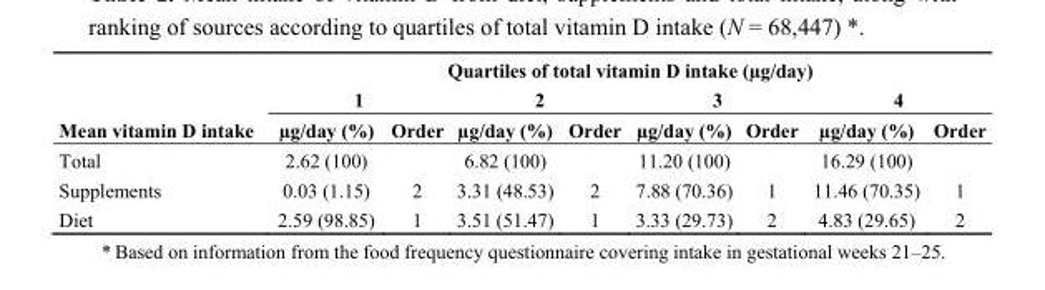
<table><thead><tr><td rowspan="3">Mean vitamin D intake</td><td colspan="8">Quartiles of total vitamin D intake (µg/day)</td></tr><tr><td colspan="2">1</td><td colspan="2">2</td><td colspan="2">3</td><td colspan="2">4</td></tr><tr><td>µg/day (%)</td><td>Order</td><td>µg/day (%)</td><td>Order</td><td>µg/day (%)</td><td>Order</td><td>µg/day (%)</td><td>Order</td></tr></thead><tbody><tr><td>Total</td><td>2.62 (100)</td><td></td><td>6.82 (100)</td><td></td><td>11.20 (100)</td><td></td><td>16.29 (100)</td><td></td></tr><tr><td>Supplements</td><td>0.03 (1.15)</td><td>2</td><td>3.31 (48.53)</td><td>2</td><td>7.88 (70.36)</td><td>1</td><td>11.46 (70.35)</td><td>1</td></tr><tr><td>Diet</td><td>2.59 (98.85)</td><td>1</td><td>3.51 (51.47)</td><td>1</td><td>3.33 (29.73)</td><td>2</td><td>4.83 (29.65)</td><td>2</td></tr></tbody></table>